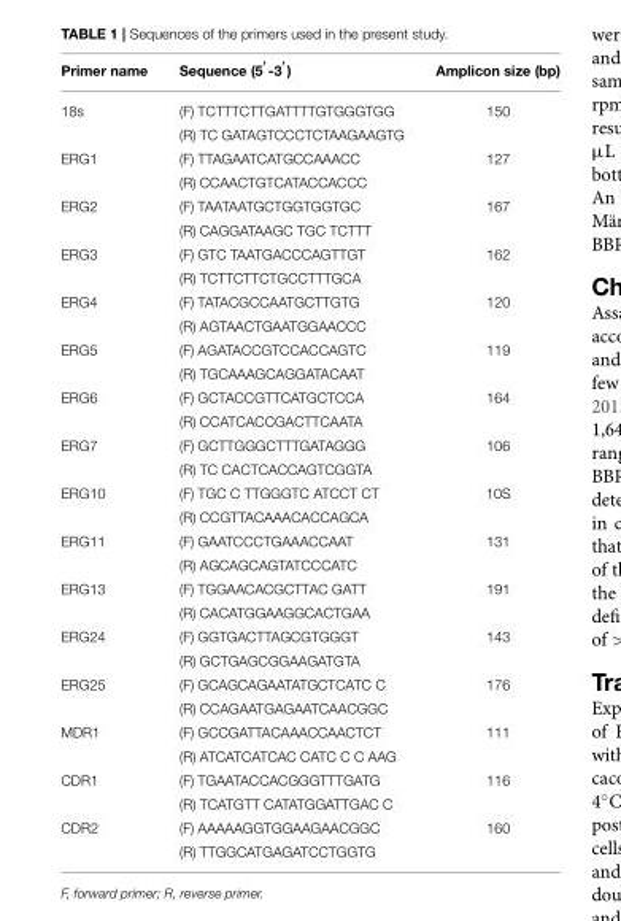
<table><thead><tr><td>Primer name</td><td>Sequence (5 ′ -3 ′)</td><td>Amplicon size (bp)</td></tr></thead><tbody><tr><td rowspan="2">18s</td><td>(F) TCTTTCTTGATTTTGTGGGTGG</td><td>150</td></tr><tr><td>(R) TC GATAGTCCCTCTAAGAAGTG</td><td></td></tr><tr><td rowspan="2">ERG1</td><td>(F) TTAGAATCATGCCAAACC</td><td>127</td></tr><tr><td>(R) CCAACTGTCATACCACCC</td><td></td></tr><tr><td rowspan="2">ERG2</td><td>(F) TAATAATGCTGGTGGTGC</td><td>167</td></tr><tr><td>(R) CAGGATAAGC TGC TCTTT</td><td></td></tr><tr><td rowspan="2">ERG3</td><td>(F) GTC TAATGACCCAGTTGT</td><td>162</td></tr><tr><td>(R) TCTTCTTCTGCCTTTGCA</td><td></td></tr><tr><td rowspan="2">ERG4</td><td>(F) TATACGCCAATGCTTGTG</td><td>120</td></tr><tr><td>(R) AGTAACTGAATGGAACCC</td><td></td></tr><tr><td rowspan="2">ERG5</td><td>(F) AGATACCGTCCACCAGTC</td><td>119</td></tr><tr><td>(R) TGCAAAGCAGGATACAAT</td><td></td></tr><tr><td rowspan="2">ERG6</td><td>(F) GCTACCGTTCATGCTCCA</td><td>164</td></tr><tr><td>(R) CCATCACCGACTTCAATA</td><td></td></tr><tr><td rowspan="2">ERG7</td><td>(F) GCTTGGGCTTTGATAGGG</td><td>106</td></tr><tr><td>(R) TC CACTCACCAGTCGGTA</td><td></td></tr><tr><td rowspan="2">ERG10</td><td>(F) TGC C TTGGGTC ATCCT CT</td><td>10S</td></tr><tr><td>(R) CCGTTACAAACACCAGCA</td><td></td></tr><tr><td rowspan="2">ERG11</td><td>(F) GAATCCCTGAAACCAAT</td><td>131</td></tr><tr><td>(R) AGCAGCAGTATCCCATC</td><td></td></tr><tr><td rowspan="2">ERG13</td><td>(F) TGGAACACGCTTAC GATT</td><td>191</td></tr><tr><td>(R) CACATGGAAGGCACTGAA</td><td></td></tr><tr><td rowspan="2">ERG24</td><td>(F) GGTGACTTAGCGTGGGT</td><td>143</td></tr><tr><td>(R) GCTGAGCGGAAGATGTA</td><td></td></tr><tr><td rowspan="2">ERG25</td><td>(F) GCAGCAGAATATGCTCATC C</td><td>176</td></tr><tr><td>(R) CCAGAATGAGAATCAACGGC</td><td></td></tr><tr><td rowspan="2">MDR1</td><td>(F) GCCGATTACAAACCAACTCT</td><td>111</td></tr><tr><td>(R) ATCATCATCAC CATC C C AAG</td><td></td></tr><tr><td rowspan="2">CDR1</td><td>(F) TGAATACCACGGGTTTGATG</td><td>116</td></tr><tr><td>(R) TCATGTT CATATGGATTGAC C</td><td></td></tr><tr><td rowspan="2">CDR2</td><td>(F) AAAAAGGTGGAAGAACGGC</td><td>160</td></tr><tr><td>(R) TTGGCATGAGATCCTGGTG</td><td></td></tr></tbody></table>